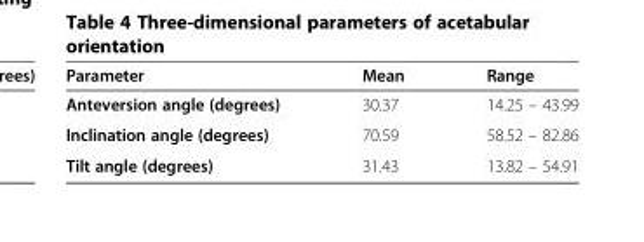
<table><thead><tr><td>Parameter</td><td>Mean</td><td>Range</td></tr></thead><tbody><tr><td>Anteversion angle (degrees)</td><td>30.37</td><td>14.25 – 43.99</td></tr><tr><td>Inclination angle (degrees)</td><td>70.59</td><td>58.52 – 82.86</td></tr><tr><td>Tilt angle (degrees)</td><td>31.43</td><td>13.82 – 54.91</td></tr></tbody></table>